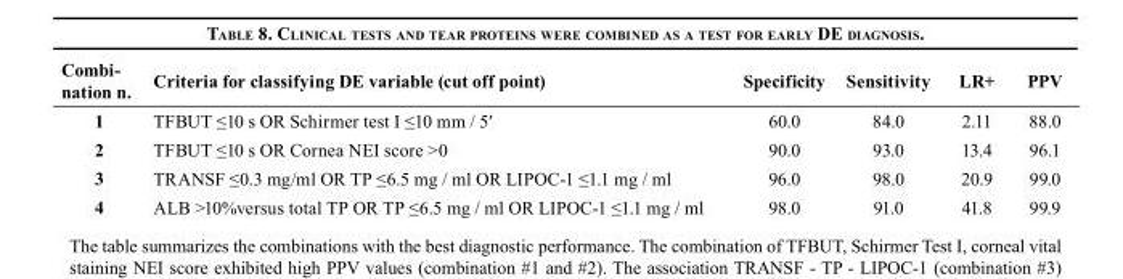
<table><thead><tr><td>Combi- nation n.</td><td>Criteria for classifying DE variable (cut off point)</td><td>Specificity</td><td>Sensitivity</td><td>LR+</td><td>PPV</td></tr></thead><tbody><tr><td>1</td><td>TFBUT ≤10 s OR Schirmer test I ≤10 mm / 5′</td><td>60.0</td><td>84.0</td><td>2.11</td><td>88.0</td></tr><tr><td>2</td><td>TFBUT ≤10 s OR Cornea NEI score &gt;0</td><td>90.0</td><td>93.0</td><td>13.4</td><td>96.1</td></tr><tr><td>3</td><td>TRANSF ≤0.3 mg/ml OR TP ≤6.5 mg / ml OR LIPOC-1 ≤1.1 mg / ml</td><td>96.0</td><td>98.0</td><td>20.9</td><td>99.0</td></tr><tr><td>4</td><td>ALB &gt;10%versus total TP OR TP ≤6.5 mg / ml OR LIPOC-1 ≤1.1 mg / ml</td><td>98.0</td><td>91.0</td><td>41.8</td><td>99.9</td></tr></tbody></table>